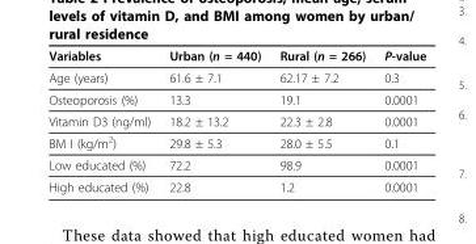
<table><thead><tr><td>Variables</td><td>Urban (n = 440)</td><td>Rural (n = 266)</td><td>P-value</td></tr></thead><tbody><tr><td>Age (years)</td><td>61.6 ± 7.1</td><td>62.17 ± 7.2</td><td>0.3</td></tr><tr><td>Osteoporosis (%)</td><td>13.3</td><td>19.1</td><td>0.0001</td></tr><tr><td>Vitamin D3 (ng/ml)</td><td>18.2 ± 13.2</td><td>22.3 ± 2.8</td><td>0.0001</td></tr><tr><td>BM I (kg/m<sup>2</sup>)</td><td>29.8 ± 5.3</td><td>28.0 ± 5.5</td><td>0.1</td></tr><tr><td>Low educated (%)</td><td>72.2</td><td>98.9</td><td>0.0001</td></tr><tr><td>High educated (%)</td><td>22.8</td><td>1.2</td><td>0.0001</td></tr></tbody></table>